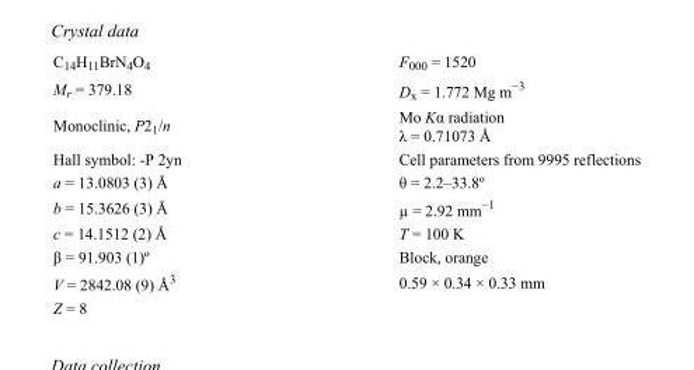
<table><tbody><tr><td>C<sub>14</sub>H<sub>11</sub>BrN<sub>4</sub>O<sub>4</sub></td><td>F000 = 1520</td></tr><tr><td>M<sub>r</sub> = 379.18</td><td>D<sub>x</sub> = 1.772 Mg m<sup>−3</sup></td></tr><tr><td>Monoclinic, P2<sub>1</sub>/n</td><td>Mo Kα radiation λ = 0.71073 Å</td></tr><tr><td>Hall symbol: -P 2yn</td><td>Cell parameters from 9995 reflections</td></tr><tr><td>a = 13.0803 (3) Å</td><td>θ = 2.2–33.8º</td></tr><tr><td>b = 15.3626 (3) Å</td><td>µ = 2.92 mm<sup>−1</sup></td></tr><tr><td>c = 14.1512 (2) Å</td><td>T = 100 K</td></tr><tr><td>β = 91.903 (1)º</td><td>Block, orange</td></tr><tr><td>V = 2842.08 (9) Å<sup>3</sup></td><td>0.59 × 0.34 × 0.33 mm</td></tr><tr><td>Z = 8</td><td></td></tr></tbody></table>